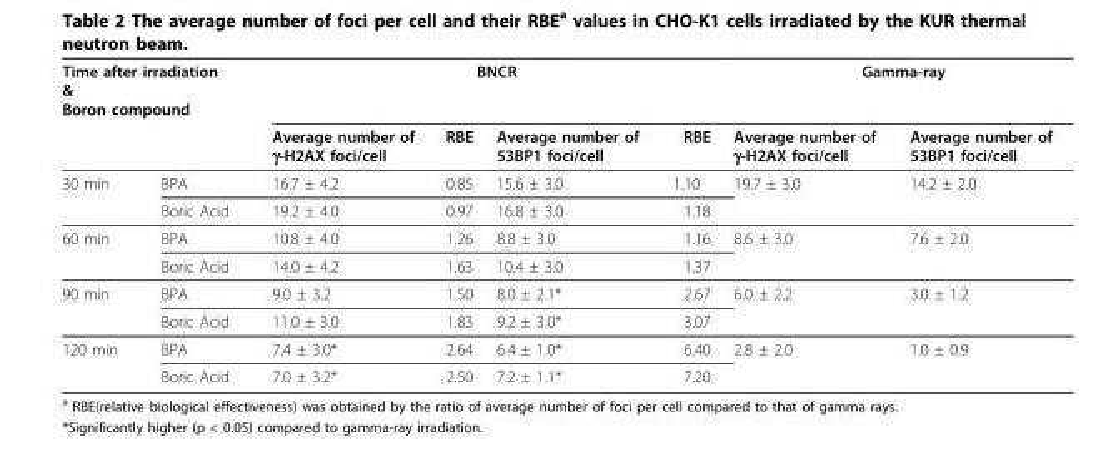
<table><thead><tr><td colspan="2">Time after irradiation &amp; Boron compound</td><td colspan="4">BNCR</td><td colspan="2">Gamma-ray</td></tr><tr><td></td><td></td><td>Average number of γ-H2AX foci/cell</td><td>RBE</td><td>Average number of 53BP1 foci/cell</td><td>RBE</td><td>Average number of γ-H2AX foci/cell</td><td>Average number of 53BP1 foci/cell</td></tr></thead><tbody><tr><td rowspan="2">30 min</td><td>BPA</td><td>16.7 ± 4.2</td><td>0.85</td><td>15.6 ± 3.0</td><td>1.10</td><td>19.7 ± 3.0</td><td>14.2 ± 2.0</td></tr><tr><td>Boric Acid</td><td>19.2 ± 4.0</td><td>0.97</td><td>16.8 ± 3.0</td><td>1.18</td><td></td><td></td></tr><tr><td rowspan="2">60 min</td><td>BPA</td><td>10.8 ± 4.0</td><td>1.26</td><td>8.8 ± 3.0</td><td>1.16</td><td>8.6 ± 3.0</td><td>7.6 ± 2.0</td></tr><tr><td>Boric Acid</td><td>14.0 ± 4.2</td><td>1.63</td><td>10.4 ± 3.0</td><td>1.37</td><td></td><td></td></tr><tr><td rowspan="2">90 min</td><td>BPA</td><td>9.0 ± 3.2</td><td>1.50</td><td>8.0 ± 2.1*</td><td>2.67</td><td>6.0 ± 2.2</td><td>3.0 ± 1.2</td></tr><tr><td>Boric Acid</td><td>11.0 ± 3.0</td><td>1.83</td><td>9.2 ± 3.0*</td><td>3.07</td><td></td><td></td></tr><tr><td rowspan="2">120 min</td><td>BPA</td><td>7.4 ± 3.0*</td><td>2.64</td><td>6.4 ± 1.0*</td><td>6.40</td><td>2.8 ± 2.0</td><td>1.0 ± 0.9</td></tr><tr><td>Boric Acid</td><td>7.0 ± 3.2*</td><td>2.50</td><td>7.2 ± 1.1*</td><td>7.20</td><td></td><td></td></tr></tbody></table>